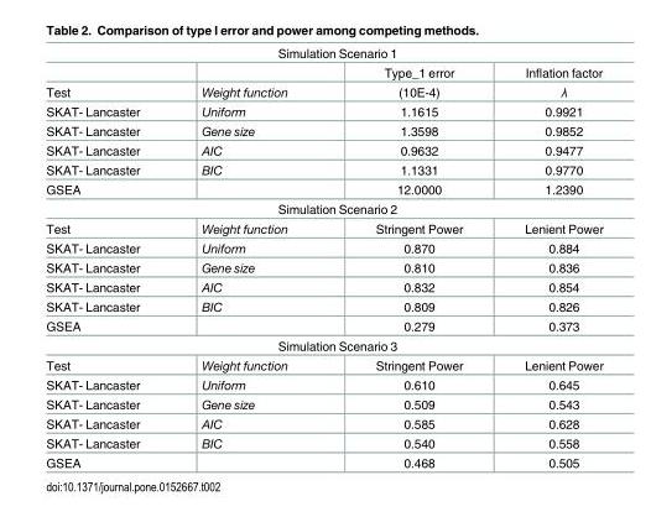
<table><tbody><tr><td colspan="4">Simulation Scenario 1</td></tr><tr><td></td><td></td><td>Type_1 error</td><td>Inflation factor</td></tr><tr><td>Test</td><td>Weight function</td><td>(10E-4)</td><td>λ</td></tr><tr><td>SKAT- Lancaster</td><td>Uniform</td><td>1.1615</td><td>0.9921</td></tr><tr><td>SKAT- Lancaster</td><td>Gene size</td><td>1.3598</td><td>0.9852</td></tr><tr><td>SKAT- Lancaster</td><td>AIC</td><td>0.9632</td><td>0.9477</td></tr><tr><td>SKAT- Lancaster</td><td>BIC</td><td>1.1331</td><td>0.9770</td></tr><tr><td>GSEA</td><td></td><td>12.0000</td><td>1.2390</td></tr><tr><td colspan="4">Simulation Scenario 2</td></tr><tr><td>Test</td><td>Weight function</td><td>Stringent Power</td><td>Lenient Power</td></tr><tr><td>SKAT- Lancaster</td><td>Uniform</td><td>0.870</td><td>0.884</td></tr><tr><td>SKAT- Lancaster</td><td>Gene size</td><td>0.810</td><td>0.836</td></tr><tr><td>SKAT- Lancaster</td><td>AIC</td><td>0.832</td><td>0.854</td></tr><tr><td>SKAT- Lancaster</td><td>BIC</td><td>0.809</td><td>0.826</td></tr><tr><td>GSEA</td><td></td><td>0.279</td><td>0.373</td></tr><tr><td colspan="4">Simulation Scenario 3</td></tr><tr><td>Test</td><td>Weight function</td><td>Stringent Power</td><td>Lenient Power</td></tr><tr><td>SKAT- Lancaster</td><td>Uniform</td><td>0.610</td><td>0.645</td></tr><tr><td>SKAT- Lancaster</td><td>Gene size</td><td>0.509</td><td>0.543</td></tr><tr><td>SKAT- Lancaster</td><td>AIC</td><td>0.585</td><td>0.628</td></tr><tr><td>SKAT- Lancaster</td><td>BIC</td><td>0.540</td><td>0.558</td></tr><tr><td>GSEA</td><td></td><td>0.468</td><td>0.505</td></tr></tbody></table>